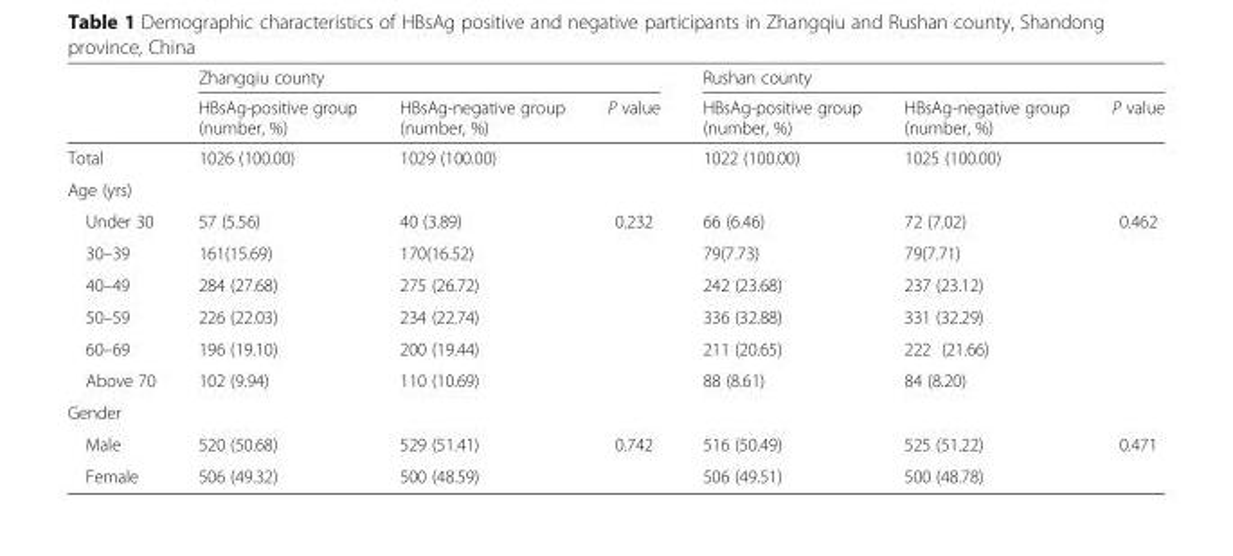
<table><thead><tr><td rowspan="2"></td><td colspan="3">Zhangqiu county</td><td colspan="3">Rushan county</td></tr><tr><td>HBsAg-positive group (number, %)</td><td>HBsAg-negative group (number, %)</td><td>P value</td><td>HBsAg-positive group (number, %)</td><td>HBsAg-negative group (number, %)</td><td>P value</td></tr></thead><tbody><tr><td>Total</td><td>1026 (100.00)</td><td>1029 (100.00)</td><td></td><td>1022 (100.00)</td><td>1025 (100.00)</td><td></td></tr><tr><td colspan="7">Age (yrs)</td></tr><tr><td>Under 30</td><td>57 (5.56)</td><td>40 (3.89)</td><td>0.232</td><td>66 (6.46)</td><td>72 (7.02)</td><td>0.462</td></tr><tr><td>30–39</td><td>161(15.69)</td><td>170(16.52)</td><td></td><td>79(7.73)</td><td>79(7.71)</td><td></td></tr><tr><td>40–49</td><td>284 (27.68)</td><td>275 (26.72)</td><td></td><td>242 (23.68)</td><td>237 (23.12)</td><td></td></tr><tr><td>50–59</td><td>226 (22.03)</td><td>234 (22.74)</td><td></td><td>336 (32.88)</td><td>331 (32.29)</td><td></td></tr><tr><td>60–69</td><td>196 (19.10)</td><td>200 (19.44)</td><td></td><td>211 (20.65)</td><td>222 (21.66)</td><td></td></tr><tr><td>Above 70</td><td>102 (9.94)</td><td>110 (10.69)</td><td></td><td>88 (8.61)</td><td>84 (8.20)</td><td></td></tr><tr><td colspan="7">Gender</td></tr><tr><td>Male</td><td>520 (50.68)</td><td>529 (51.41)</td><td>0.742</td><td>516 (50.49)</td><td>525 (51.22)</td><td>0.471</td></tr><tr><td>Female</td><td>506 (49.32)</td><td>500 (48.59)</td><td></td><td>506 (49.51)</td><td>500 (48.78)</td><td></td></tr></tbody></table>